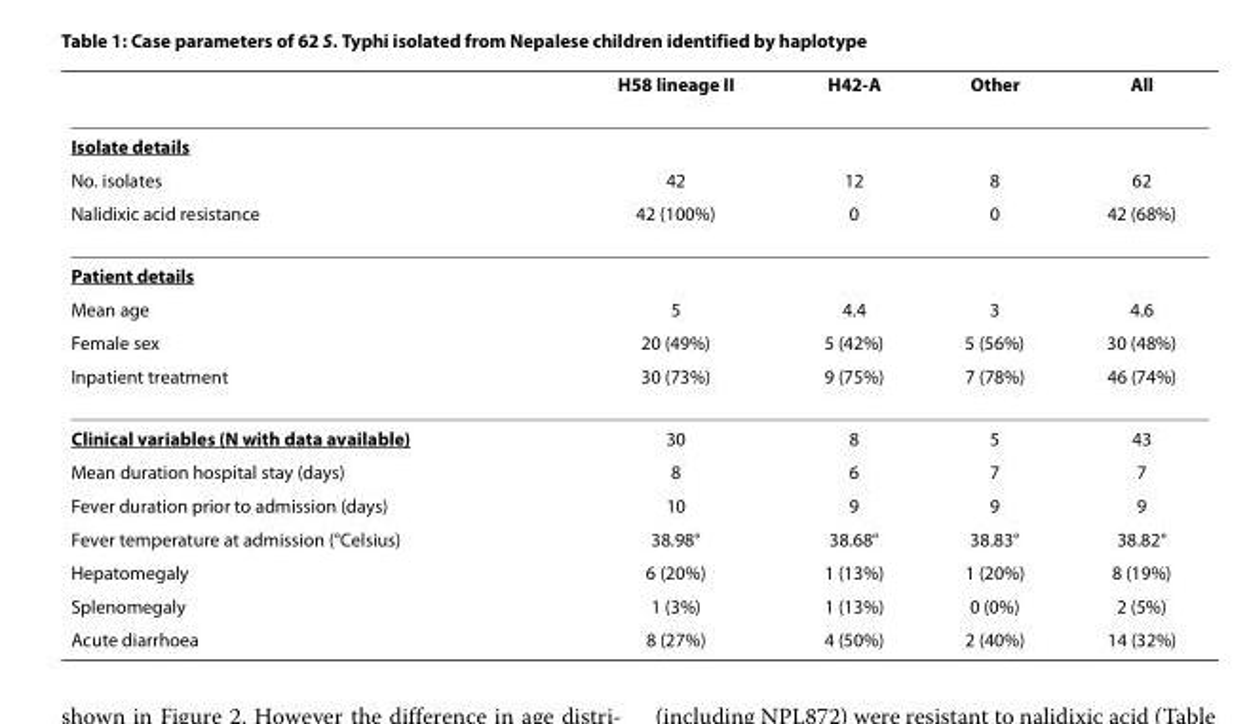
<table><thead><tr><td></td><td>H58 lineage II</td><td>H42-A</td><td>Other</td><td>All</td></tr></thead><tbody><tr><td colspan="5">Isolate details</td></tr><tr><td>No. isolates</td><td>42</td><td>12</td><td>8</td><td>62</td></tr><tr><td>Nalidixic acid resistance</td><td>42 (100%)</td><td>0</td><td>0</td><td>42 (68%)</td></tr><tr><td colspan="5">Patient details</td></tr><tr><td>Mean age</td><td>5</td><td>4.4</td><td>3</td><td>4.6</td></tr><tr><td>Female sex</td><td>20 (49%)</td><td>5 (42%)</td><td>5 (56%)</td><td>30 (48%)</td></tr><tr><td>Inpatient treatment</td><td>30 (73%)</td><td>9 (75%)</td><td>7 (78%)</td><td>46 (74%)</td></tr><tr><td>Clinical variables (N with data available)</td><td>30</td><td>8</td><td>5</td><td>43</td></tr><tr><td>Mean duration hospital stay (days)</td><td>8</td><td>6</td><td>7</td><td>7</td></tr><tr><td>Fever duration prior to admission (days)</td><td>10</td><td>9</td><td>9</td><td>9</td></tr><tr><td>Fever temperature at admission (°Celsius)</td><td>38.98°</td><td>38.68°</td><td>38.83°</td><td>38.82°</td></tr><tr><td>Hepatomegaly</td><td>6 (20%)</td><td>1 (13%)</td><td>1 (20%)</td><td>8 (19%)</td></tr><tr><td>Splenomegaly</td><td>1 (3%)</td><td>1 (13%)</td><td>0 (0%)</td><td>2 (5%)</td></tr><tr><td>Acute diarrhoea</td><td>8 (27%)</td><td>4 (50%)</td><td>2 (40%)</td><td>14 (32%)</td></tr></tbody></table>